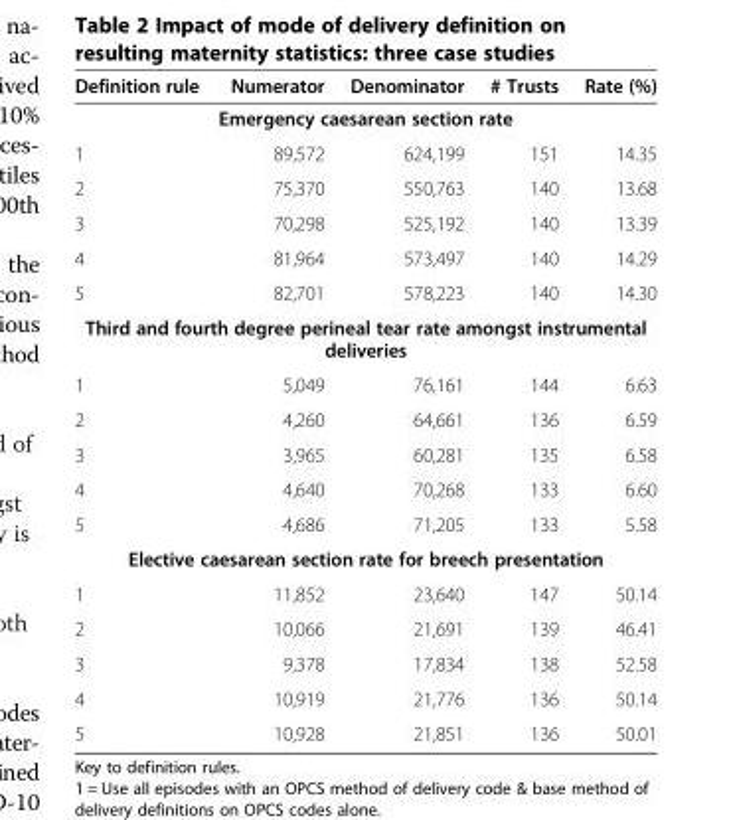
<table><thead><tr><td>Definition rule</td><td>Numerator</td><td>Denominator</td><td># Trusts</td><td>Rate (%)</td></tr></thead><tbody><tr><td colspan="5">Emergency caesarean section rate</td></tr><tr><td>1</td><td>89,572</td><td>624,199</td><td>151</td><td>14.35</td></tr><tr><td>2</td><td>75,370</td><td>550,763</td><td>140</td><td>13.68</td></tr><tr><td>3</td><td>70,298</td><td>525,192</td><td>140</td><td>13.39</td></tr><tr><td>4</td><td>81,964</td><td>573,497</td><td>140</td><td>14.29</td></tr><tr><td>5</td><td>82,701</td><td>578,223</td><td>140</td><td>14.30</td></tr><tr><td colspan="5">Third and fourth degree perineal tear rate amongst instrumental deliveries</td></tr><tr><td>1</td><td>5,049</td><td>76,161</td><td>144</td><td>6.63</td></tr><tr><td>2</td><td>4,260</td><td>64,661</td><td>136</td><td>6.59</td></tr><tr><td>3</td><td>3,965</td><td>60,281</td><td>135</td><td>6.58</td></tr><tr><td>4</td><td>4,640</td><td>70,268</td><td>133</td><td>6.60</td></tr><tr><td>5</td><td>4,686</td><td>71,205</td><td>133</td><td>5.58</td></tr><tr><td colspan="5">Elective caesarean section rate for breech presentation</td></tr><tr><td>1</td><td>11,852</td><td>23,640</td><td>147</td><td>50.14</td></tr><tr><td>2</td><td>10,066</td><td>21,691</td><td>139</td><td>46.41</td></tr><tr><td>3</td><td>9,378</td><td>17,834</td><td>138</td><td>52.58</td></tr><tr><td>4</td><td>10,919</td><td>21,776</td><td>136</td><td>50.14</td></tr><tr><td>5</td><td>10,928</td><td>21,851</td><td>136</td><td>50.01</td></tr></tbody></table>